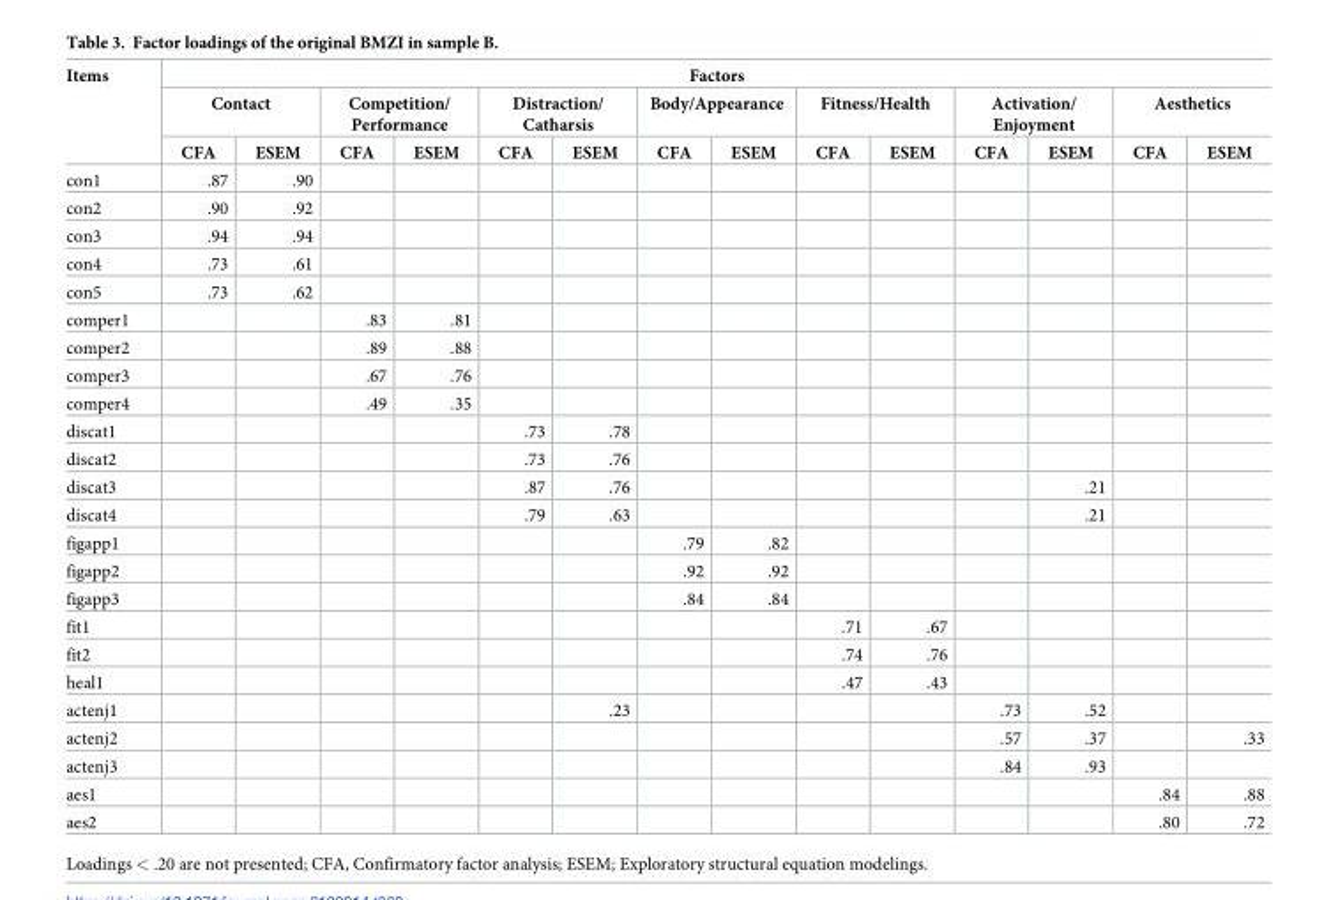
<table><thead><tr><td rowspan="3">Items</td><td colspan="14">Factors</td></tr><tr><td colspan="2">Contact</td><td colspan="2">Competition/ Performance</td><td colspan="2">Distraction/ Catharsis</td><td colspan="2">Body/Appearance</td><td colspan="2">Fitness/Health</td><td colspan="2">Activation/ Enjoyment</td><td colspan="2">Aesthetics</td></tr><tr><td>CFA</td><td>ESEM</td><td>CFA</td><td>ESEM</td><td>CFA</td><td>ESEM</td><td>CFA</td><td>ESEM</td><td>CFA</td><td>ESEM</td><td>CFA</td><td>ESEM</td><td>CFA</td><td>ESEM</td></tr></thead><tbody><tr><td>con1</td><td>.87</td><td>.90</td><td></td><td></td><td></td><td></td><td></td><td></td><td></td><td></td><td></td><td></td><td></td><td></td></tr><tr><td>con2</td><td>.90</td><td>.92</td><td></td><td></td><td></td><td></td><td></td><td></td><td></td><td></td><td></td><td></td><td></td><td></td></tr><tr><td>con3</td><td>.94</td><td>.94</td><td></td><td></td><td></td><td></td><td></td><td></td><td></td><td></td><td></td><td></td><td></td><td></td></tr><tr><td>con4</td><td>.73</td><td>.61</td><td></td><td></td><td></td><td></td><td></td><td></td><td></td><td></td><td></td><td></td><td></td><td></td></tr><tr><td>con5</td><td>.73</td><td>.62</td><td></td><td></td><td></td><td></td><td></td><td></td><td></td><td></td><td></td><td></td><td></td><td></td></tr><tr><td>comper1</td><td></td><td></td><td>.83</td><td>.81</td><td></td><td></td><td></td><td></td><td></td><td></td><td></td><td></td><td></td><td></td></tr><tr><td>comper2</td><td></td><td></td><td>.89</td><td>.88</td><td></td><td></td><td></td><td></td><td></td><td></td><td></td><td></td><td></td><td></td></tr><tr><td>comper3</td><td></td><td></td><td>.67</td><td>.76</td><td></td><td></td><td></td><td></td><td></td><td></td><td></td><td></td><td></td><td></td></tr><tr><td>comper4</td><td></td><td></td><td>.49</td><td>.35</td><td></td><td></td><td></td><td></td><td></td><td></td><td></td><td></td><td></td><td></td></tr><tr><td>discat1</td><td></td><td></td><td></td><td></td><td>.73</td><td>.78</td><td></td><td></td><td></td><td></td><td></td><td></td><td></td><td></td></tr><tr><td>discat2</td><td></td><td></td><td></td><td></td><td>.73</td><td>.76</td><td></td><td></td><td></td><td></td><td></td><td></td><td></td><td></td></tr><tr><td>discat3</td><td></td><td></td><td></td><td></td><td>.87</td><td>.76</td><td></td><td></td><td></td><td></td><td></td><td>.21</td><td></td><td></td></tr><tr><td>discat4</td><td></td><td></td><td></td><td></td><td>.79</td><td>.63</td><td></td><td></td><td></td><td></td><td></td><td>.21</td><td></td><td></td></tr><tr><td>figapp1</td><td></td><td></td><td></td><td></td><td></td><td></td><td>.79</td><td>.82</td><td></td><td></td><td></td><td></td><td></td><td></td></tr><tr><td>figapp2</td><td></td><td></td><td></td><td></td><td></td><td></td><td>.92</td><td>.92</td><td></td><td></td><td></td><td></td><td></td><td></td></tr><tr><td>figapp3</td><td></td><td></td><td></td><td></td><td></td><td></td><td>.84</td><td>.84</td><td></td><td></td><td></td><td></td><td></td><td></td></tr><tr><td>fit1</td><td></td><td></td><td></td><td></td><td></td><td></td><td></td><td></td><td>.71</td><td>.67</td><td></td><td></td><td></td><td></td></tr><tr><td>fit2</td><td></td><td></td><td></td><td></td><td></td><td></td><td></td><td></td><td>.74</td><td>.76</td><td></td><td></td><td></td><td></td></tr><tr><td>heal1</td><td></td><td></td><td></td><td></td><td></td><td></td><td></td><td></td><td>.47</td><td>.43</td><td></td><td></td><td></td><td></td></tr><tr><td>actenj1</td><td></td><td></td><td></td><td></td><td></td><td>.23</td><td></td><td></td><td></td><td></td><td>.73</td><td>.52</td><td></td><td></td></tr><tr><td>actenj2</td><td></td><td></td><td></td><td></td><td></td><td></td><td></td><td></td><td></td><td></td><td>.57</td><td>.37</td><td></td><td>.33</td></tr><tr><td>actenj3</td><td></td><td></td><td></td><td></td><td></td><td></td><td></td><td></td><td></td><td></td><td>.84</td><td>.93</td><td></td><td></td></tr><tr><td>aes1</td><td></td><td></td><td></td><td></td><td></td><td></td><td></td><td></td><td></td><td></td><td></td><td></td><td>.84</td><td>.88</td></tr><tr><td>aes2</td><td></td><td></td><td></td><td></td><td></td><td></td><td></td><td></td><td></td><td></td><td></td><td></td><td>.80</td><td>.72</td></tr></tbody></table>